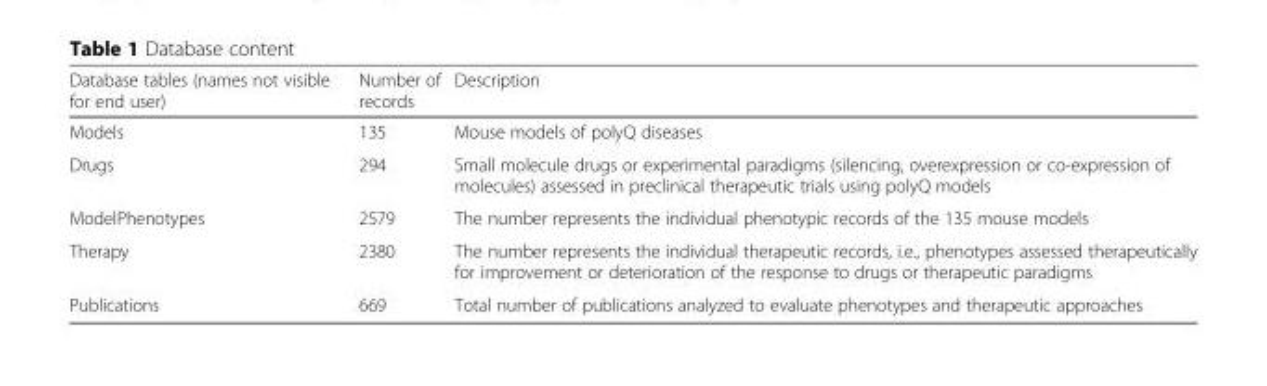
<table><thead><tr><td>Database tables (names not visible for end user)</td><td>Number of records</td><td>Description</td></tr></thead><tbody><tr><td>Models</td><td>135</td><td>Mouse models of polyQ diseases</td></tr><tr><td>Drugs</td><td>294</td><td>Small molecule drugs or experimental paradigms (silencing, overexpression or co-expression of molecules) assessed in preclinical therapeutic trials using polyQ models</td></tr><tr><td>ModelPhenotypes</td><td>2579</td><td>The number represents the individual phenotypic records of the 135 mouse models</td></tr><tr><td>Therapy</td><td>2380</td><td>The number represents the individual therapeutic records, i.e., phenotypes assessed therapeutically for improvement or deterioration of the response to drugs or therapeutic paradigms</td></tr><tr><td>Publications</td><td>669</td><td>Total number of publications analyzed to evaluate phenotypes and therapeutic approaches</td></tr></tbody></table>